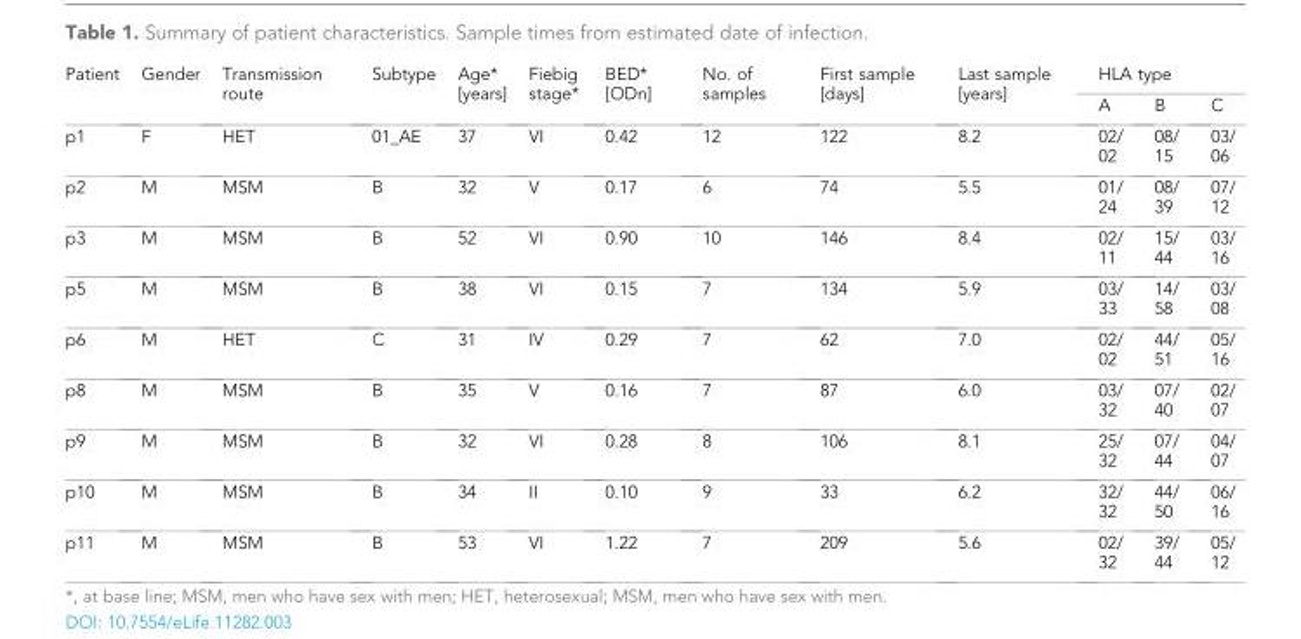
<table><tbody><tr><td rowspan="2">Patient</td><td rowspan="2">Gender</td><td rowspan="2">Transmission route</td><td rowspan="2">Subtype</td><td rowspan="2">Age* [years]</td><td rowspan="2">Fiebig stage*</td><td rowspan="2">BED* [ODn]</td><td rowspan="2">No. of samples</td><td rowspan="2">First sample [days]</td><td rowspan="2">Last sample [years]</td><td colspan="3">HLA type</td></tr><tr><td>A</td><td>B</td><td>C</td></tr><tr><td>p1</td><td>F</td><td>HET</td><td>01_AE</td><td>37</td><td>VI</td><td>0.42</td><td>12</td><td>122</td><td>8.2</td><td>02/ 02</td><td>08/ 15</td><td>03/ 06</td></tr><tr><td>p2</td><td>M</td><td>MSM</td><td>B</td><td>32</td><td>V</td><td>0.17</td><td>6</td><td>74</td><td>5.5</td><td>01/ 24</td><td>08/ 39</td><td>07/ 12</td></tr><tr><td>p3</td><td>M</td><td>MSM</td><td>B</td><td>52</td><td>VI</td><td>0.90</td><td>10</td><td>146</td><td>8.4</td><td>02/ 11</td><td>15/ 44</td><td>03/ 16</td></tr><tr><td>p5</td><td>M</td><td>MSM</td><td>B</td><td>38</td><td>VI</td><td>0.15</td><td>7</td><td>134</td><td>5.9</td><td>03/ 33</td><td>14/ 58</td><td>03/ 08</td></tr><tr><td>p6</td><td>M</td><td>HET</td><td>C</td><td>31</td><td>IV</td><td>0.29</td><td>7</td><td>62</td><td>7.0</td><td>02/ 02</td><td>44/ 51</td><td>05/ 16</td></tr><tr><td>p8</td><td>M</td><td>MSM</td><td>B</td><td>35</td><td>V</td><td>0.16</td><td>7</td><td>87</td><td>6.0</td><td>03/ 32</td><td>07/ 40</td><td>02/ 07</td></tr><tr><td>p9</td><td>M</td><td>MSM</td><td>B</td><td>32</td><td>VI</td><td>0.28</td><td>8</td><td>106</td><td>8.1</td><td>25/ 32</td><td>07/ 44</td><td>04/ 07</td></tr><tr><td>p10</td><td>M</td><td>MSM</td><td>B</td><td>34</td><td>II</td><td>0.10</td><td>9</td><td>33</td><td>6.2</td><td>32/ 32</td><td>44/ 50</td><td>06/ 16</td></tr><tr><td>p11</td><td>M</td><td>MSM</td><td>B</td><td>53</td><td>VI</td><td>1.22</td><td>7</td><td>209</td><td>5.6</td><td>02/ 32</td><td>39/ 44</td><td>05/ 12</td></tr></tbody></table>